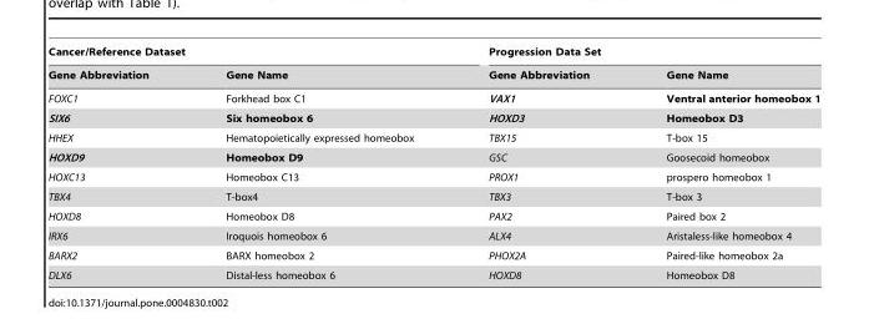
<table><thead><tr><td colspan="2">Cancer/Reference Dataset</td><td colspan="2">Progression Data Set</td></tr><tr><td>Gene Abbreviation</td><td>Gene Name</td><td>Gene Abbreviation</td><td>Gene Name</td></tr></thead><tbody><tr><td>FOXC1</td><td>Forkhead box C1</td><td>VAX1</td><td>Ventral anterior homeobox 1</td></tr><tr><td>SIX6</td><td>Six homeobox 6</td><td>HOXD3</td><td>Homeobox D3</td></tr><tr><td>HHEX</td><td>Hematopoietically expressed homeobox</td><td>TBX15</td><td>T-box 15</td></tr><tr><td>HOXD9</td><td>Homeobox D9</td><td>GSC</td><td>Goosecoid homeobox</td></tr><tr><td>HOXC13</td><td>Homeobox C13</td><td>PROX1</td><td>prospero homeobox 1</td></tr><tr><td>TBX4</td><td>T-box4</td><td>TBX3</td><td>T-box 3</td></tr><tr><td>HOXD8</td><td>Homeobox D8</td><td>PAX2</td><td>Paired box 2</td></tr><tr><td>IRX6</td><td>Iroquois homeobox 6</td><td>ALX4</td><td>Aristaless-like homeobox 4</td></tr><tr><td>BARX2</td><td>BARX homeobox 2</td><td>PHOX2A</td><td>Paired-like homeobox 2a</td></tr><tr><td>DLX6</td><td>Distal-less homeobox 6</td><td>HOXD8</td><td>Homeobox D8</td></tr></tbody></table>